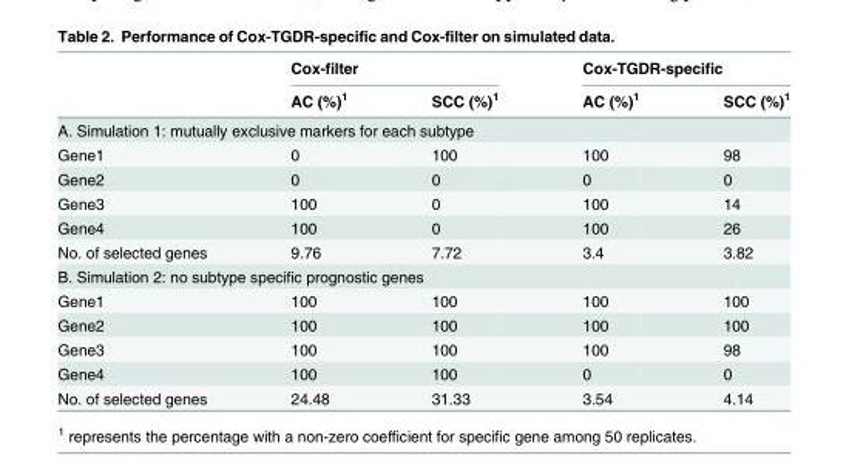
<table><thead><tr><td rowspan="2"></td><td colspan="2">Cox-filter</td><td colspan="2">Cox-TGDR-specific</td></tr><tr><td>AC (%)<sup>1</sup></td><td>SCC (%)<sup>1</sup></td><td>AC (%)<sup>1</sup></td><td>SCC (%)<sup>1</sup></td></tr></thead><tbody><tr><td colspan="5">A. Simulation 1: mutually exclusive markers for each subtype</td></tr><tr><td>Gene1</td><td>0</td><td>100</td><td>100</td><td>98</td></tr><tr><td>Gene2</td><td>0</td><td>0</td><td>0</td><td>0</td></tr><tr><td>Gene3</td><td>100</td><td>0</td><td>100</td><td>14</td></tr><tr><td>Gene4</td><td>100</td><td>0</td><td>100</td><td>26</td></tr><tr><td>No. of selected genes</td><td>9.76</td><td>7.72</td><td>3.4</td><td>3.82</td></tr><tr><td colspan="5">B. Simulation 2: no subtype specific prognostic genes</td></tr><tr><td>Gene1</td><td>100</td><td>100</td><td>100</td><td>100</td></tr><tr><td>Gene2</td><td>100</td><td>100</td><td>100</td><td>100</td></tr><tr><td>Gene3</td><td>100</td><td>100</td><td>100</td><td>98</td></tr><tr><td>Gene4</td><td>100</td><td>100</td><td>0</td><td>0</td></tr><tr><td>No. of selected genes</td><td>24.48</td><td>31.33</td><td>3.54</td><td>4.14</td></tr></tbody></table>